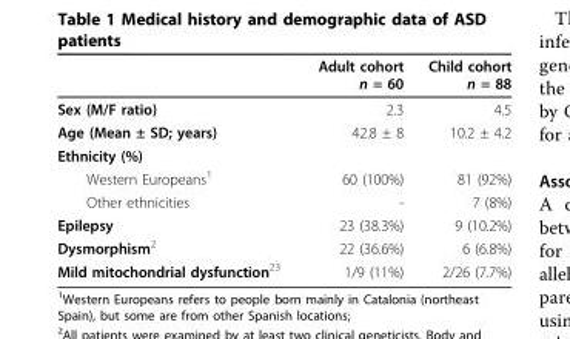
<table><thead><tr><td></td><td>Adult cohort n = 60</td><td>Child cohort n = 88</td></tr></thead><tbody><tr><td>Sex (M/F ratio)</td><td>2.3</td><td>4.5</td></tr><tr><td>Age (Mean ± SD; years)</td><td>42.8 ± 8</td><td>10.2 ± 4.2</td></tr><tr><td colspan="3">Ethnicity (%)</td></tr><tr><td>Western Europeans<sup>1</sup></td><td>60 (100%)</td><td>81 (92%)</td></tr><tr><td>Other ethnicities</td><td>-</td><td>7 (8%)</td></tr><tr><td>Epilepsy</td><td>23 (38.3%)</td><td>9 (10.2%)</td></tr><tr><td>Dysmorphism<sup>2</sup></td><td>22 (36.6%)</td><td>6 (6.8%)</td></tr><tr><td>Mild mitochondrial dysfunction<sup>23</sup></td><td>1/9 (11%)</td><td>2/26 (7.7%)</td></tr></tbody></table>